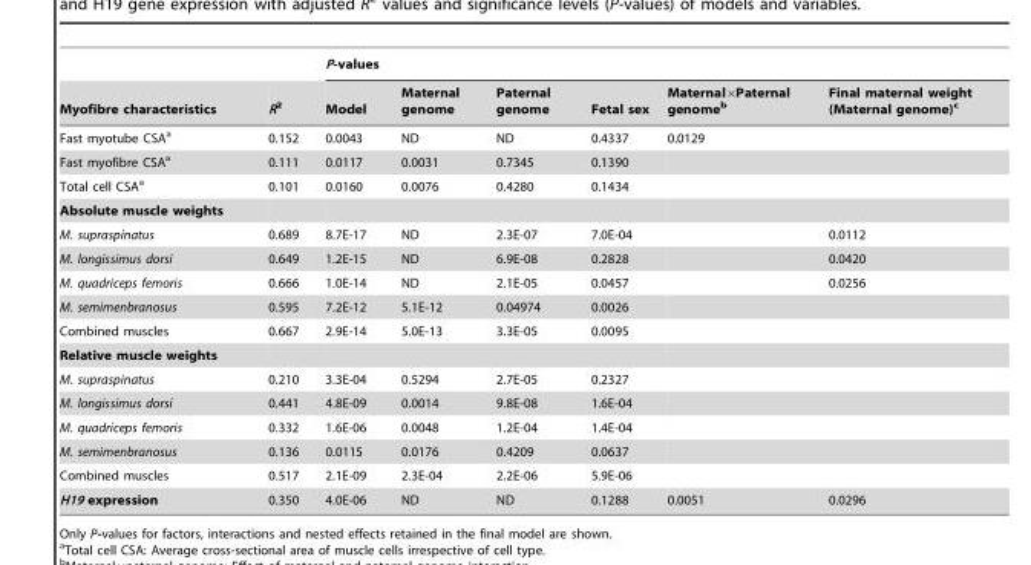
<table><thead><tr><td rowspan="2">Myofibre characteristics</td><td rowspan="2">R<sup>2</sup></td><td colspan="6">P-values</td></tr><tr><td>Model</td><td>Maternal genome</td><td>Paternal genome</td><td>Fetal sex</td><td>Maternal×Paternal genome<sup>b</sup></td><td>Final maternal weight (Maternal genome)<sup>c</sup></td></tr></thead><tbody><tr><td>Fast myotube CSA<sup>a</sup></td><td>0.152</td><td>0.0043</td><td>ND</td><td>ND</td><td>0.4337</td><td>0.0129</td><td></td></tr><tr><td>Fast myofibre CSA<sup>a</sup></td><td>0.111</td><td>0.0117</td><td>0.0031</td><td>0.7345</td><td>0.1390</td><td></td><td></td></tr><tr><td>Total cell CSA<sup>a</sup></td><td>0.101</td><td>0.0160</td><td>0.0076</td><td>0.4280</td><td>0.1434</td><td></td><td></td></tr><tr><td colspan="8">Absolute muscle weights</td></tr><tr><td>M. supraspinatus</td><td>0.689</td><td>8.7E-17</td><td>ND</td><td>2.3E-07</td><td>7.0E-04</td><td></td><td>0.0112</td></tr><tr><td>M. longissimus dorsi</td><td>0.649</td><td>1.2E-15</td><td>ND</td><td>6.9E-08</td><td>0.2828</td><td></td><td>0.0420</td></tr><tr><td>M. quadriceps femoris</td><td>0.666</td><td>1.0E-14</td><td>ND</td><td>2.1E-05</td><td>0.0457</td><td></td><td>0.0256</td></tr><tr><td>M. semimenbranosus</td><td>0.595</td><td>7.2E-12</td><td>5.1E-12</td><td>0.04974</td><td>0.0026</td><td></td><td></td></tr><tr><td>Combined muscles</td><td>0.667</td><td>2.9E-14</td><td>5.0E-13</td><td>3.3E-05</td><td>0.0095</td><td></td><td></td></tr><tr><td colspan="8">Relative muscle weights</td></tr><tr><td>M. supraspinatus</td><td>0.210</td><td>3.3E-04</td><td>0.5294</td><td>2.7E-05</td><td>0.2327</td><td></td><td></td></tr><tr><td>M. longissimus dorsi</td><td>0.441</td><td>4.8E-09</td><td>0.0014</td><td>9.8E-08</td><td>1.6E-04</td><td></td><td></td></tr><tr><td>M. quadriceps femoris</td><td>0.332</td><td>1.6E-06</td><td>0.0048</td><td>1.2E-04</td><td>1.4E-04</td><td></td><td></td></tr><tr><td>M. semimenbranosus</td><td>0.136</td><td>0.0115</td><td>0.0176</td><td>0.4209</td><td>0.0637</td><td></td><td></td></tr><tr><td>Combined muscles</td><td>0.517</td><td>2.1E-09</td><td>2.3E-04</td><td>2.2E-06</td><td>5.9E-06</td><td></td><td></td></tr><tr><td>H19 expression</td><td>0.350</td><td>4.0E-06</td><td>ND</td><td>ND</td><td>0.1288</td><td>0.0051</td><td>0.0296</td></tr></tbody></table>